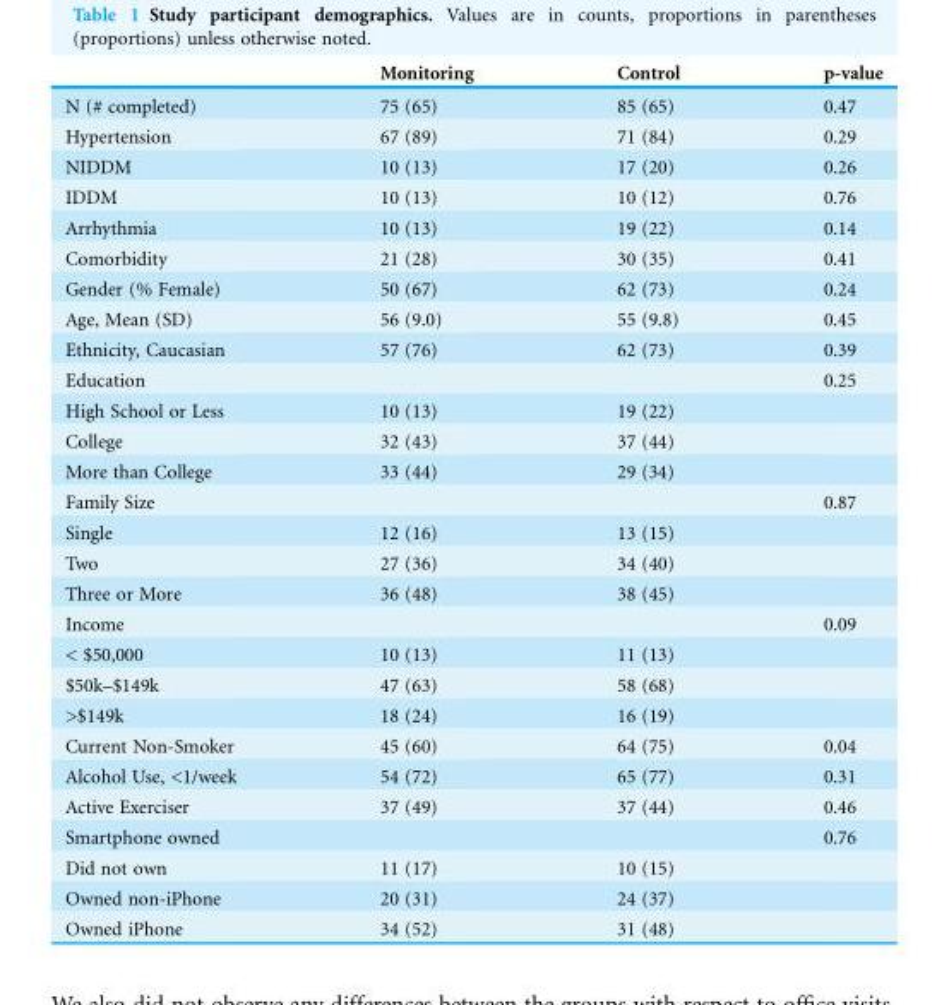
<table><thead><tr><td></td><td>Monitoring</td><td>Control</td><td>p-value</td></tr></thead><tbody><tr><td>N (# completed)</td><td>75 (65)</td><td>85 (65)</td><td>0.47</td></tr><tr><td>Hypertension</td><td>67 (89)</td><td>71 (84)</td><td>0.29</td></tr><tr><td>NIDDM</td><td>10 (13)</td><td>17 (20)</td><td>0.26</td></tr><tr><td>IDDM</td><td>10 (13)</td><td>10 (12)</td><td>0.76</td></tr><tr><td>Arrhythmia</td><td>10 (13)</td><td>19 (22)</td><td>0.14</td></tr><tr><td>Comorbidity</td><td>21 (28)</td><td>30 (35)</td><td>0.41</td></tr><tr><td>Gender (% Female)</td><td>50 (67)</td><td>62 (73)</td><td>0.24</td></tr><tr><td>Age, Mean (SD)</td><td>56 (9.0)</td><td>55 (9.8)</td><td>0.45</td></tr><tr><td>Ethnicity, Caucasian</td><td>57 (76)</td><td>62 (73)</td><td>0.39</td></tr><tr><td>Education</td><td></td><td></td><td>0.25</td></tr><tr><td>High School or Less</td><td>10 (13)</td><td>19 (22)</td><td></td></tr><tr><td>College</td><td>32 (43)</td><td>37 (44)</td><td></td></tr><tr><td>More than College</td><td>33 (44)</td><td>29 (34)</td><td></td></tr><tr><td>Family Size</td><td></td><td></td><td>0.87</td></tr><tr><td>Single</td><td>12 (16)</td><td>13 (15)</td><td></td></tr><tr><td>Two</td><td>27 (36)</td><td>34 (40)</td><td></td></tr><tr><td>Three or More</td><td>36 (48)</td><td>38 (45)</td><td></td></tr><tr><td>Income</td><td></td><td></td><td>0.09</td></tr><tr><td>&lt; $50,000</td><td>10 (13)</td><td>11 (13)</td><td></td></tr><tr><td>$50k–$149k</td><td>47 (63)</td><td>58 (68)</td><td></td></tr><tr><td>&gt;$149k</td><td>18 (24)</td><td>16 (19)</td><td></td></tr><tr><td>Current Non-Smoker</td><td>45 (60)</td><td>64 (75)</td><td>0.04</td></tr><tr><td>Alcohol Use, &lt;1/week</td><td>54 (72)</td><td>65 (77)</td><td>0.31</td></tr><tr><td>Active Exerciser</td><td>37 (49)</td><td>37 (44)</td><td>0.46</td></tr><tr><td>Smartphone owned</td><td></td><td></td><td>0.76</td></tr><tr><td>Did not own</td><td>11 (17)</td><td>10 (15)</td><td></td></tr><tr><td>Owned non-iPhone</td><td>20 (31)</td><td>24 (37)</td><td></td></tr><tr><td>Owned iPhone</td><td>34 (52)</td><td>31 (48)</td><td></td></tr></tbody></table>